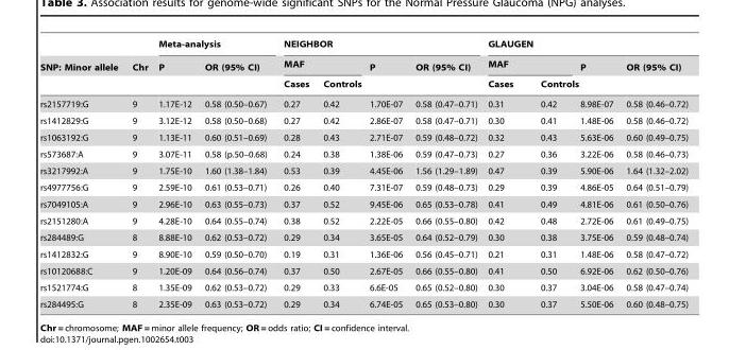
<table><thead><tr><td rowspan="3">SNP: Minor allele</td><td rowspan="3">Chr</td><td colspan="2">Meta-analysis</td><td colspan="4">NEIGHBOR</td><td colspan="4">GLAUGEN</td></tr><tr><td rowspan="2">P</td><td rowspan="2">OR (95% CI)</td><td colspan="2">MAF</td><td rowspan="2">P</td><td rowspan="2">OR (95% CI)</td><td colspan="2">MAF</td><td rowspan="2">P</td><td rowspan="2">OR (95% CI)</td></tr><tr><td>Cases</td><td>Controls</td><td>Cases</td><td>Controls</td></tr></thead><tbody><tr><td>rs2157719:G</td><td>9</td><td>1.17E-12</td><td>0.58 (0.50–0.67)</td><td>0.27</td><td>0.42</td><td>1.70E-07</td><td>0.58 (0.47–0.71)</td><td>0.31</td><td>0.42</td><td>8.98E-07</td><td>0.58 (0.46–0.72)</td></tr><tr><td>rs1412829:G</td><td>9</td><td>3.12E-12</td><td>0.58 (0.50–0.68)</td><td>0.27</td><td>0.42</td><td>2.86E-07</td><td>0.58 (0.47–0.71)</td><td>0.30</td><td>0.41</td><td>1.48E-06</td><td>0.58 (0.46–0.72)</td></tr><tr><td>rs1063192:G</td><td>9</td><td>1.13E-11</td><td>0.60 (0.51–0.69)</td><td>0.28</td><td>0.43</td><td>2.71E-07</td><td>0.59 (0.48–0.72)</td><td>0.32</td><td>0.43</td><td>5.63E-06</td><td>0.60 (0.49–0.75)</td></tr><tr><td>rs573687:A</td><td>9</td><td>3.07E-11</td><td>0.58 (p.50–0.68)</td><td>0.24</td><td>0.38</td><td>1.38E-06</td><td>0.59 (0.47–0.73)</td><td>0.27</td><td>0.36</td><td>3.22E-06</td><td>0.58 (0.46–0.73)</td></tr><tr><td>rs3217992:A</td><td>9</td><td>1.75E-10</td><td>1.60 (1.38–1.84)</td><td>0.53</td><td>0.39</td><td>4.45E-06</td><td>1.56 (1.29–1.89)</td><td>0.47</td><td>0.39</td><td>5.90E-06</td><td>1.64 (1.32–2.02)</td></tr><tr><td>rs4977756:G</td><td>9</td><td>2.59E-10</td><td>0.61 (0.53–0.71)</td><td>0.26</td><td>0.40</td><td>7.31E-07</td><td>0.59 (0.48–0.73)</td><td>0.29</td><td>0.39</td><td>4.86E-05</td><td>0.64 (0.51–0.79)</td></tr><tr><td>rs7049105:A</td><td>9</td><td>2.96E-10</td><td>0.63 (0.55–0.73)</td><td>0.37</td><td>0.52</td><td>9.45E-06</td><td>0.65 (0.53–0.78)</td><td>0.41</td><td>0.49</td><td>4.81E-06</td><td>0.61 (0.50–0.76)</td></tr><tr><td>rs2151280:A</td><td>9</td><td>4.28E-10</td><td>0.64 (0.55–0.74)</td><td>0.38</td><td>0.52</td><td>2.22E-05</td><td>0.66 (0.55–0.80)</td><td>0.42</td><td>0.48</td><td>2.72E-06</td><td>0.61 (0.49–0.75)</td></tr><tr><td>rs284489:G</td><td>8</td><td>8.88E-10</td><td>0.62 (0.53–0.72)</td><td>0.29</td><td>0.34</td><td>3.65E-05</td><td>0.64 (0.52–0.79)</td><td>0.30</td><td>0.38</td><td>3.75E-06</td><td>0.59 (0.48–0.74)</td></tr><tr><td>rs1412832:G</td><td>9</td><td>8.90E-10</td><td>0.59 (0.50–0.70)</td><td>0.19</td><td>0.31</td><td>1.36E-06</td><td>0.56 (0.45–0.71)</td><td>0.21</td><td>0.31</td><td>1.48E-06</td><td>0.58 (0.47–0.72)</td></tr><tr><td>rs10120688:C</td><td>9</td><td>1.20E-09</td><td>0.64 (0.56–0.74)</td><td>0.37</td><td>0.50</td><td>2.67E-05</td><td>0.66 (0.55–0.80)</td><td>0.41</td><td>0.50</td><td>6.92E-06</td><td>0.62 (0.50–0.76)</td></tr><tr><td>rs1521774:G</td><td>8</td><td>1.35E-09</td><td>0.62 (0.53–0.72)</td><td>0.29</td><td>0.33</td><td>6.6E-05</td><td>0.65 (0.52–0.80)</td><td>0.30</td><td>0.37</td><td>3.04E-06</td><td>0.58 (0.47–0.74)</td></tr><tr><td>rs284495:G</td><td>8</td><td>2.35E-09</td><td>0.63 (0.53–0.72)</td><td>0.29</td><td>0.34</td><td>6.74E-05</td><td>0.65 (0.53–0.80)</td><td>0.30</td><td>0.37</td><td>5.50E-06</td><td>0.60 (0.48–0.75)</td></tr></tbody></table>